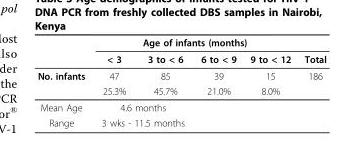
<table><thead><tr><td rowspan="2"></td><td colspan="4">Age of infants (months)</td><td rowspan="2">Total</td></tr><tr><td>&lt; 3</td><td>3 to &lt; 6</td><td>6 to &lt; 9</td><td>9 to &lt; 12</td></tr></thead><tbody><tr><td rowspan="2">No. infants</td><td>47</td><td>85</td><td>39</td><td>15</td><td>186</td></tr><tr><td>25.3%</td><td>45.7%</td><td>21.0%</td><td>8.0%</td><td></td></tr><tr><td>Mean Age</td><td colspan="2">4.6 months</td><td></td><td></td><td></td></tr><tr><td>Range</td><td colspan="2">3 wks - 11.5 months</td><td></td><td></td><td></td></tr></tbody></table>